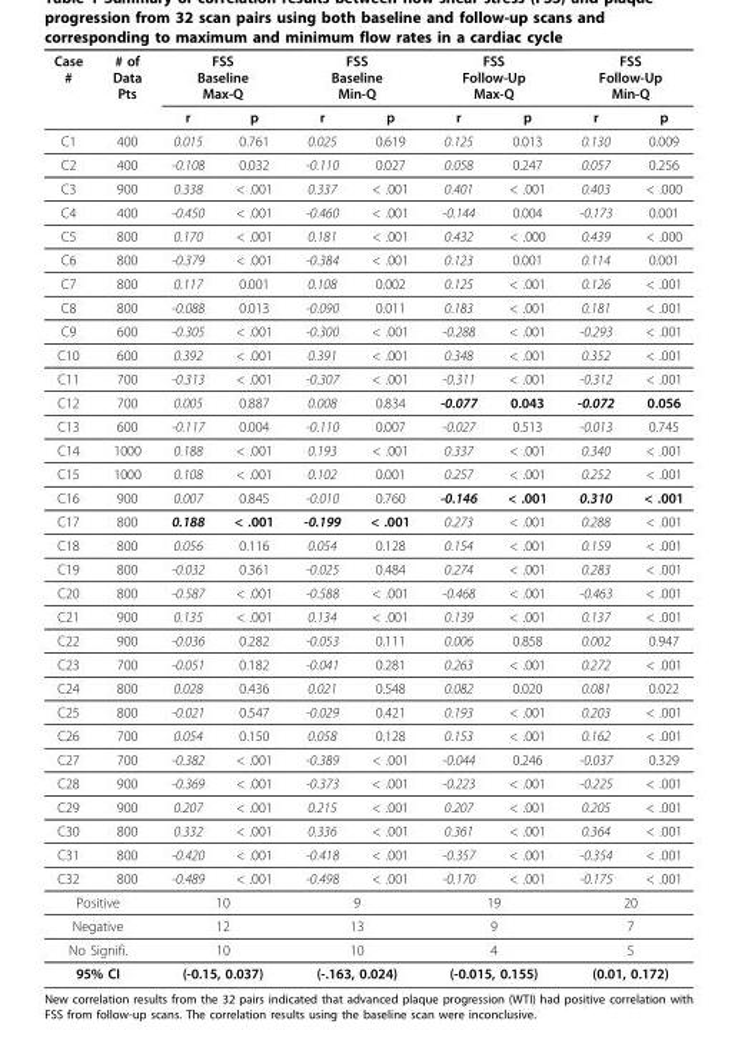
<table><thead><tr><td rowspan="2">Case #</td><td rowspan="2"># of Data Pts</td><td colspan="2">FSS Baseline Max-Q</td><td colspan="2">FSS Baseline Min-Q</td><td colspan="2">FSS Follow-Up Max-Q</td><td colspan="2">FSS Follow-Up Min-Q</td></tr><tr><td>r</td><td>p</td><td>r</td><td>p</td><td>r</td><td>p</td><td>r</td><td>p</td></tr></thead><tbody><tr><td>C1</td><td>400</td><td>0.015</td><td>0.761</td><td>0.025</td><td>0.619</td><td>0.125</td><td>0.013</td><td>0.130</td><td>0.009</td></tr><tr><td>C2</td><td>400</td><td>-0.108</td><td>0.032</td><td>-0.110</td><td>0.027</td><td>0.058</td><td>0.247</td><td>0.057</td><td>0.256</td></tr><tr><td>C3</td><td>900</td><td>0.338</td><td>&lt; .001</td><td>0.337</td><td>&lt; .001</td><td>0.401</td><td>&lt; .001</td><td>0.403</td><td>&lt; .000</td></tr><tr><td>C4</td><td>400</td><td>-0.450</td><td>&lt; .001</td><td>-0.460</td><td>&lt; .001</td><td>-0.144</td><td>0.004</td><td>-0.173</td><td>0.001</td></tr><tr><td>C5</td><td>800</td><td>0.170</td><td>&lt; .001</td><td>0.181</td><td>&lt; .001</td><td>0.432</td><td>&lt; .000</td><td>0.439</td><td>&lt; .000</td></tr><tr><td>C6</td><td>800</td><td>-0.379</td><td>&lt; .001</td><td>-0.384</td><td>&lt; .001</td><td>0.123</td><td>0.001</td><td>0.114</td><td>0.001</td></tr><tr><td>C7</td><td>800</td><td>0.117</td><td>0.001</td><td>0.108</td><td>0.002</td><td>0.125</td><td>&lt; .001</td><td>0.126</td><td>&lt; .001</td></tr><tr><td>C8</td><td>800</td><td>-0.088</td><td>0.013</td><td>-0.090</td><td>0.011</td><td>0.183</td><td>&lt; .001</td><td>0.181</td><td>&lt; .001</td></tr><tr><td>C9</td><td>600</td><td>-0.305</td><td>&lt; .001</td><td>-0.300</td><td>&lt; .001</td><td>-0.288</td><td>&lt; .001</td><td>-0.293</td><td>&lt; .001</td></tr><tr><td>C10</td><td>600</td><td>0.392</td><td>&lt; .001</td><td>0.391</td><td>&lt; .001</td><td>0.348</td><td>&lt; .001</td><td>0.352</td><td>&lt; .001</td></tr><tr><td>C11</td><td>700</td><td>-0.313</td><td>&lt; .001</td><td>-0.307</td><td>&lt; .001</td><td>-0.311</td><td>&lt; .001</td><td>-0.312</td><td>&lt; .001</td></tr><tr><td>C12</td><td>700</td><td>0.005</td><td>0.887</td><td>0.008</td><td>0.834</td><td>-0.077</td><td>0.043</td><td>-0.072</td><td>0.056</td></tr><tr><td>C13</td><td>600</td><td>-0.117</td><td>0.004</td><td>-0.110</td><td>0.007</td><td>-0.027</td><td>0.513</td><td>-0.013</td><td>0.745</td></tr><tr><td>C14</td><td>1000</td><td>0.188</td><td>&lt; .001</td><td>0.193</td><td>&lt; .001</td><td>0.337</td><td>&lt; .001</td><td>0.340</td><td>&lt; .001</td></tr><tr><td>C15</td><td>1000</td><td>0.108</td><td>&lt; .001</td><td>0.102</td><td>0.001</td><td>0.257</td><td>&lt; .001</td><td>0.252</td><td>&lt; .001</td></tr><tr><td>C16</td><td>900</td><td>0.007</td><td>0.845</td><td>-0.010</td><td>0.760</td><td>-0.146</td><td>&lt; .001</td><td>0.310</td><td>&lt; .001</td></tr><tr><td>C17</td><td>800</td><td>0.188</td><td>&lt; .001</td><td>-0.199</td><td>&lt; .001</td><td>0.273</td><td>&lt; .001</td><td>0.288</td><td>&lt; .001</td></tr><tr><td>C18</td><td>800</td><td>0.056</td><td>0.116</td><td>0.054</td><td>0.128</td><td>0.154</td><td>&lt; .001</td><td>0.159</td><td>&lt; .001</td></tr><tr><td>C19</td><td>800</td><td>-0.032</td><td>0.361</td><td>-0.025</td><td>0.484</td><td>0.274</td><td>&lt; .001</td><td>0.283</td><td>&lt; .001</td></tr><tr><td>C20</td><td>800</td><td>-0.587</td><td>&lt; .001</td><td>-0.588</td><td>&lt; .001</td><td>-0.468</td><td>&lt; .001</td><td>-0.463</td><td>&lt; .001</td></tr><tr><td>C21</td><td>900</td><td>0.135</td><td>&lt; .001</td><td>0.134</td><td>&lt; .001</td><td>0.139</td><td>&lt; .001</td><td>0.137</td><td>&lt; .001</td></tr><tr><td>C22</td><td>900</td><td>-0.036</td><td>0.282</td><td>-0.053</td><td>0.111</td><td>0.006</td><td>0.858</td><td>0.002</td><td>0.947</td></tr><tr><td>C23</td><td>700</td><td>-0.051</td><td>0.182</td><td>-0.041</td><td>0.281</td><td>0.263</td><td>&lt; .001</td><td>0.272</td><td>&lt; .001</td></tr><tr><td>C24</td><td>800</td><td>0.028</td><td>0.436</td><td>0.021</td><td>0.548</td><td>0.082</td><td>0.020</td><td>0.081</td><td>0.022</td></tr><tr><td>C25</td><td>800</td><td>-0.021</td><td>0.547</td><td>-0.029</td><td>0.421</td><td>0.193</td><td>&lt; .001</td><td>0.203</td><td>&lt; .001</td></tr><tr><td>C26</td><td>700</td><td>0.054</td><td>0.150</td><td>0.058</td><td>0.128</td><td>0.153</td><td>&lt; .001</td><td>0.162</td><td>&lt; .001</td></tr><tr><td>C27</td><td>700</td><td>-0.382</td><td>&lt; .001</td><td>-0.389</td><td>&lt; .001</td><td>-0.044</td><td>0.246</td><td>-0.037</td><td>0.329</td></tr><tr><td>C28</td><td>900</td><td>-0.369</td><td>&lt; .001</td><td>-0.373</td><td>&lt; .001</td><td>-0.223</td><td>&lt; .001</td><td>-0.225</td><td>&lt; .001</td></tr><tr><td>C29</td><td>900</td><td>0.207</td><td>&lt; .001</td><td>0.215</td><td>&lt; .001</td><td>0.207</td><td>&lt; .001</td><td>0.205</td><td>&lt; .001</td></tr><tr><td>C30</td><td>800</td><td>0.332</td><td>&lt; .001</td><td>0.336</td><td>&lt; .001</td><td>0.361</td><td>&lt; .001</td><td>0.364</td><td>&lt; .001</td></tr><tr><td>C31</td><td>800</td><td>-0.420</td><td>&lt; .001</td><td>-0.418</td><td>&lt; .001</td><td>-0.357</td><td>&lt; .001</td><td>-0.354</td><td>&lt; .001</td></tr><tr><td>C32</td><td>800</td><td>-0.489</td><td>&lt; .001</td><td>-0.498</td><td>&lt; .001</td><td>-0.170</td><td>&lt; .001</td><td>-0.175</td><td>&lt; .001</td></tr><tr><td colspan="2">Positive</td><td colspan="2">10</td><td colspan="2">9</td><td colspan="2">19</td><td colspan="2">20</td></tr><tr><td colspan="2">Negative</td><td colspan="2">12</td><td colspan="2">13</td><td colspan="2">9</td><td colspan="2">7</td></tr><tr><td colspan="2">No Signifi.</td><td colspan="2">10</td><td colspan="2">10</td><td colspan="2">4</td><td colspan="2">5</td></tr><tr><td colspan="2">95% CI</td><td colspan="2">(-0.15, 0.037)</td><td colspan="2">(-.163, 0.024)</td><td colspan="2">(-0.015, 0.155)</td><td colspan="2">(0.01, 0.172)</td></tr></tbody></table>